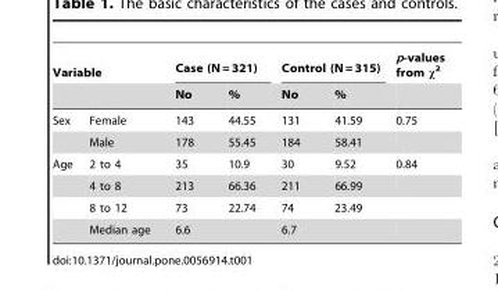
<table><thead><tr><td colspan="2">Variable</td><td colspan="2">Case (N = 321)</td><td colspan="2">Control (N = 315)</td><td rowspan="2">p-values from χ<sup>2</sup></td></tr><tr><td></td><td></td><td>No</td><td>%</td><td>No</td><td>%</td></tr></thead><tbody><tr><td rowspan="2">Sex</td><td>Female</td><td>143</td><td>44.55</td><td>131</td><td>41.59</td><td>0.75</td></tr><tr><td>Male</td><td>178</td><td>55.45</td><td>184</td><td>58.41</td><td></td></tr><tr><td rowspan="4">Age</td><td>2 to 4</td><td>35</td><td>10.9</td><td>30</td><td>9.52</td><td>0.84</td></tr><tr><td>4 to 8</td><td>213</td><td>66.36</td><td>211</td><td>66.99</td><td></td></tr><tr><td>8 to 12</td><td>73</td><td>22.74</td><td>74</td><td>23.49</td><td></td></tr><tr><td>Median age</td><td colspan="2">6.6</td><td colspan="2">6.7</td><td></td></tr></tbody></table>